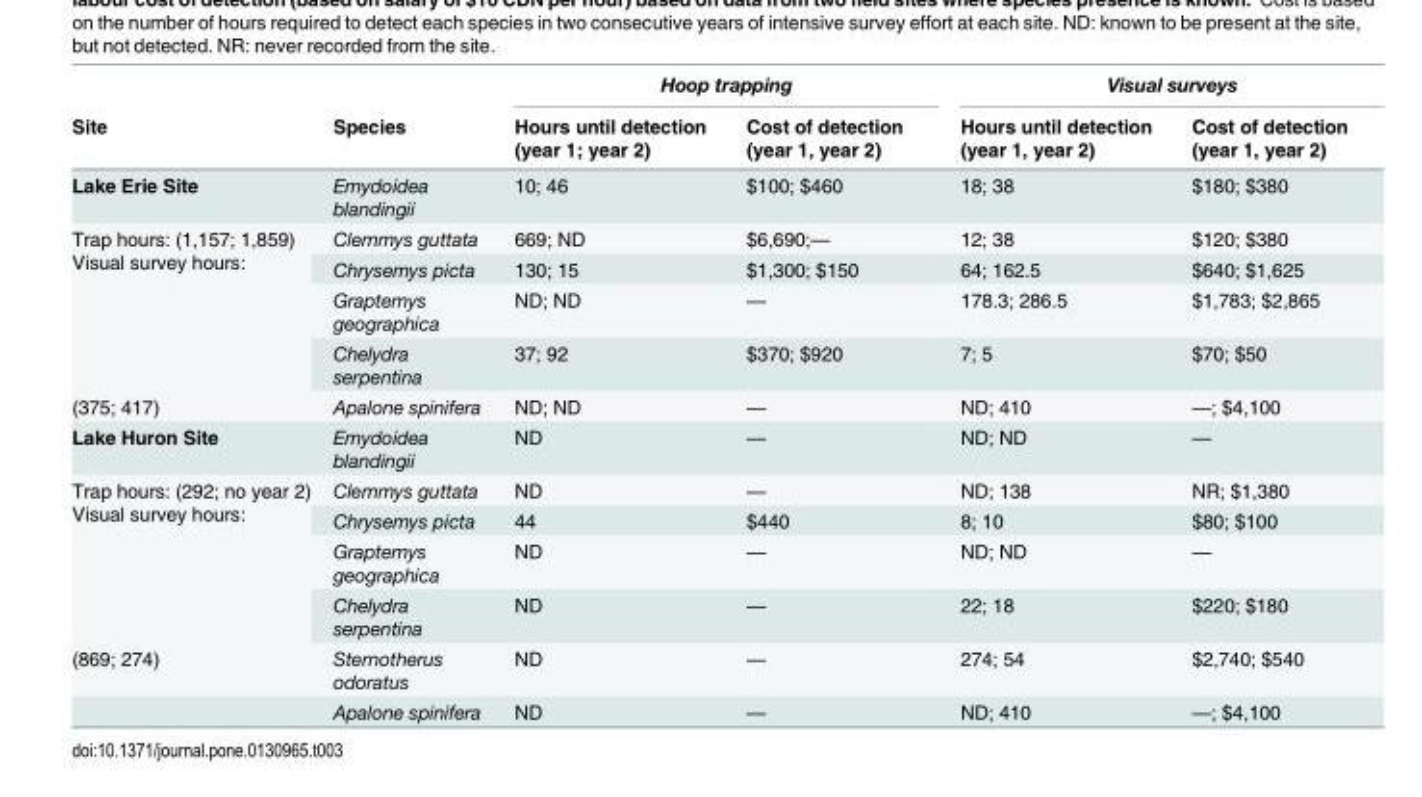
<table><thead><tr><td rowspan="2">Site</td><td rowspan="2">Species</td><td colspan="2">Hoop trapping</td><td colspan="2">Visual surveys</td></tr><tr><td>Hours until detection (year 1; year 2)</td><td>Cost of detection (year 1, year 2)</td><td>Hours until detection (year 1, year 2)</td><td>Cost of detection (year 1, year 2)</td></tr></thead><tbody><tr><td>Lake Erie Site</td><td>Emydoidea blandingii</td><td>10; 46</td><td>$100; $460</td><td>18; 38</td><td>$180; $380</td></tr><tr><td rowspan="4">Trap hours: (1,157; 1,859) Visual survey hours:</td><td>Clemmys guttata</td><td>669; ND</td><td>$6,690;—</td><td>12; 38</td><td>$120; $380</td></tr><tr><td>Chrysemys picta</td><td>130; 15</td><td>$1,300; $150</td><td>64; 162.5</td><td>$640; $1,625</td></tr><tr><td>Graptemys geographica</td><td>ND; ND</td><td>—</td><td>178.3; 286.5</td><td>$1,783; $2,865</td></tr><tr><td>Chelydra serpentina</td><td>37; 92</td><td>$370; $920</td><td>7; 5</td><td>$70; $50</td></tr><tr><td>(375; 417)</td><td>Apalone spinifera</td><td>ND; ND</td><td>—</td><td>ND; 410</td><td>—; $4,100</td></tr><tr><td>Lake Huron Site</td><td>Emydoidea blandingii</td><td>ND</td><td>—</td><td>ND; ND</td><td>—</td></tr><tr><td rowspan="4">Trap hours: (292; no year 2) Visual survey hours:</td><td>Clemmys guttata</td><td>ND</td><td>—</td><td>ND; 138</td><td>NR; $1,380</td></tr><tr><td>Chrysemys picta</td><td>44</td><td>$440</td><td>8; 10</td><td>$80; $100</td></tr><tr><td>Graptemys geographica</td><td>ND</td><td>—</td><td>ND; ND</td><td>—</td></tr><tr><td>Chelydra serpentina</td><td>ND</td><td>—</td><td>22; 18</td><td>$220; $180</td></tr><tr><td rowspan="2">(869; 274)</td><td>Sternotherus odoratus</td><td>ND</td><td>—</td><td>274; 54</td><td>$2,740; $540</td></tr><tr><td>Apalone spinifera</td><td>ND</td><td>—</td><td>ND; 410</td><td>—; $4,100</td></tr></tbody></table>